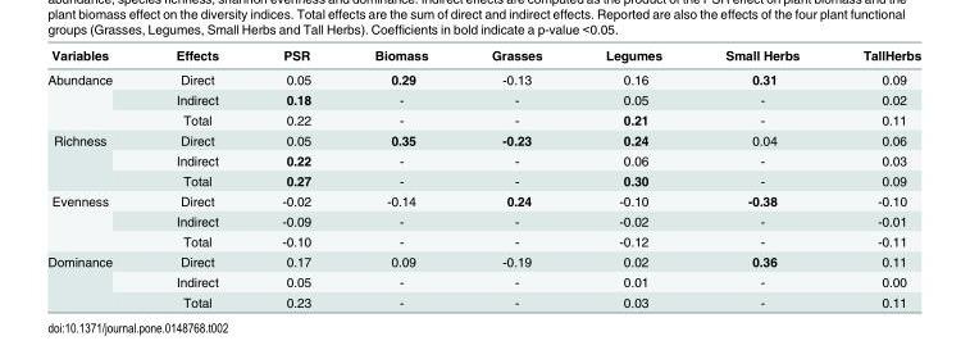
<table><thead><tr><td>Variables</td><td>Effects</td><td>PSR</td><td>Biomass</td><td>Grasses</td><td>Legumes</td><td>Small Herbs</td><td>TallHerbs</td></tr></thead><tbody><tr><td rowspan="3">Abundance</td><td>Direct</td><td>0.05</td><td>0.29</td><td>-0.13</td><td>0.16</td><td>0.31</td><td>0.09</td></tr><tr><td>Indirect</td><td>0.18</td><td>-</td><td>-</td><td>0.05</td><td>-</td><td>0.02</td></tr><tr><td>Total</td><td>0.22</td><td>-</td><td>-</td><td>0.21</td><td>-</td><td>0.11</td></tr><tr><td rowspan="3">Richness</td><td>Direct</td><td>0.05</td><td>0.35</td><td>-0.23</td><td>0.24</td><td>0.04</td><td>0.06</td></tr><tr><td>Indirect</td><td>0.22</td><td>-</td><td>-</td><td>0.06</td><td>-</td><td>0.03</td></tr><tr><td>Total</td><td>0.27</td><td>-</td><td>-</td><td>0.30</td><td>-</td><td>0.09</td></tr><tr><td rowspan="3">Evenness</td><td>Direct</td><td>-0.02</td><td>-0.14</td><td>0.24</td><td>-0.10</td><td>-0.38</td><td>-0.10</td></tr><tr><td>Indirect</td><td>-0.09</td><td>-</td><td>-</td><td>-0.02</td><td>-</td><td>-0.01</td></tr><tr><td>Total</td><td>-0.10</td><td>-</td><td>-</td><td>-0.12</td><td>-</td><td>-0.11</td></tr><tr><td rowspan="3">Dominance</td><td>Direct</td><td>0.17</td><td>0.09</td><td>-0.19</td><td>0.02</td><td>0.36</td><td>0.11</td></tr><tr><td>Indirect</td><td>0.05</td><td>-</td><td>-</td><td>0.01</td><td>-</td><td>0.00</td></tr><tr><td>Total</td><td>0.23</td><td>-</td><td>-</td><td>0.03</td><td>-</td><td>0.11</td></tr></tbody></table>